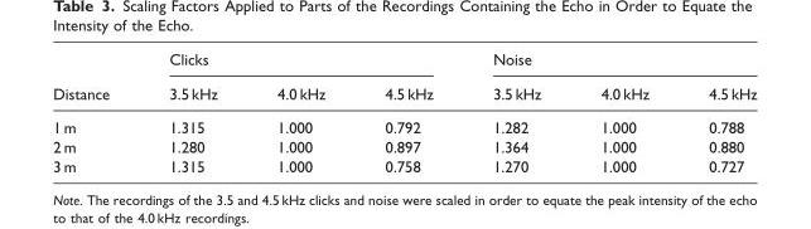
<table><thead><tr><td rowspan="2">Distance</td><td colspan="3">Clicks</td><td colspan="3">Noise</td></tr><tr><td>3.5 kHz</td><td>4.0 kHz</td><td>4.5 kHz</td><td>3.5 kHz</td><td>4.0 kHz</td><td>4.5 kHz</td></tr></thead><tbody><tr><td>1 m</td><td>1.315</td><td>1.000</td><td>0.792</td><td>1.282</td><td>1.000</td><td>0.788</td></tr><tr><td>2 m</td><td>1.280</td><td>1.000</td><td>0.897</td><td>1.364</td><td>1.000</td><td>0.880</td></tr><tr><td>3 m</td><td>1.315</td><td>1.000</td><td>0.758</td><td>1.270</td><td>1.000</td><td>0.727</td></tr></tbody></table>